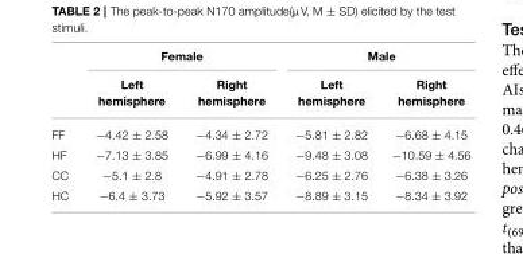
<table><thead><tr><td rowspan="2"></td><td colspan="2">Female</td><td colspan="2">Male</td></tr><tr><td>Left hemisphere</td><td>Right hemisphere</td><td>Left hemisphere</td><td>Right hemisphere</td></tr></thead><tbody><tr><td>FF</td><td>−4.42 ± 2.58</td><td>−4.34 ± 2.72</td><td>−5.81 ± 2.82</td><td>−6.68 ± 4.15</td></tr><tr><td>HF</td><td>−7.13 ± 3.85</td><td>−6.99 ± 4.16</td><td>−9.48 ± 3.08</td><td>−10.59 ± 4.56</td></tr><tr><td>CC</td><td>−5.1 ± 2.8</td><td>−4.91 ± 2.78</td><td>−6.25 ± 2.76</td><td>−6.38 ± 3.26</td></tr><tr><td>HC</td><td>−6.4 ± 3.73</td><td>−5.92 ± 3.57</td><td>−8.89 ± 3.15</td><td>−8.34 ± 3.92</td></tr></tbody></table>